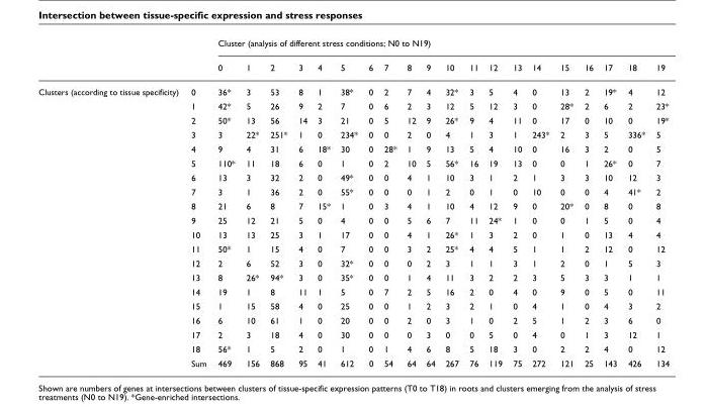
<table><thead><tr><td rowspan="2"></td><td rowspan="2"></td><td colspan="20">Cluster (analysis of different stress conditions; N0 to N19)</td></tr><tr><td>0</td><td>1</td><td>2</td><td>3</td><td>4</td><td>5</td><td>6</td><td>7</td><td>8</td><td>9</td><td>10</td><td>11</td><td>12</td><td>13</td><td>14</td><td>15</td><td>16</td><td>17</td><td>18</td><td>19</td></tr></thead><tbody><tr><td rowspan="20">Clusters (according to tissue specificity)</td><td>0</td><td>36*</td><td>3</td><td>53</td><td>8</td><td>1</td><td>38*</td><td>0</td><td>2</td><td>7</td><td>4</td><td>32*</td><td>3</td><td>5</td><td>4</td><td>0</td><td>13</td><td>2</td><td>19*</td><td>4</td><td>12</td></tr><tr><td>1</td><td>42*</td><td>5</td><td>26</td><td>9</td><td>2</td><td>7</td><td>0</td><td>6</td><td>2</td><td>3</td><td>12</td><td>5</td><td>12</td><td>3</td><td>0</td><td>28*</td><td>2</td><td>6</td><td>2</td><td>23*</td></tr><tr><td>2</td><td>50*</td><td>13</td><td>56</td><td>14</td><td>3</td><td>21</td><td>0</td><td>5</td><td>12</td><td>9</td><td>26*</td><td>9</td><td>4</td><td>11</td><td>0</td><td>17</td><td>0</td><td>10</td><td>0</td><td>19*</td></tr><tr><td>3</td><td>3</td><td>22*</td><td>251*</td><td>1</td><td>0</td><td>234*</td><td>0</td><td>0</td><td>2</td><td>0</td><td>4</td><td>1</td><td>3</td><td>1</td><td>243*</td><td>2</td><td>3</td><td>5</td><td>336*</td><td>5</td></tr><tr><td>4</td><td>9</td><td>4</td><td>31</td><td>6</td><td>18*</td><td>30</td><td>0</td><td>28*</td><td>1</td><td>9</td><td>13</td><td>5</td><td>4</td><td>10</td><td>0</td><td>16</td><td>3</td><td>2</td><td>0</td><td>5</td></tr><tr><td>5</td><td>110*</td><td>11</td><td>18</td><td>6</td><td>0</td><td>1</td><td>0</td><td>2</td><td>10</td><td>5</td><td>56*</td><td>16</td><td>19</td><td>13</td><td>0</td><td>0</td><td>1</td><td>26*</td><td>0</td><td>7</td></tr><tr><td>6</td><td>13</td><td>3</td><td>32</td><td>2</td><td>0</td><td>49*</td><td>0</td><td>0</td><td>4</td><td>1</td><td>10</td><td>3</td><td>1</td><td>2</td><td>1</td><td>3</td><td>3</td><td>10</td><td>12</td><td>3</td></tr><tr><td>7</td><td>3</td><td>1</td><td>36</td><td>2</td><td>0</td><td>55*</td><td>0</td><td>0</td><td>0</td><td>1</td><td>2</td><td>0</td><td>1</td><td>0</td><td>10</td><td>0</td><td>0</td><td>4</td><td>41*</td><td>2</td></tr><tr><td>8</td><td>21</td><td>6</td><td>8</td><td>7</td><td>15*</td><td>1</td><td>0</td><td>3</td><td>4</td><td>1</td><td>10</td><td>4</td><td>12</td><td>9</td><td>0</td><td>20*</td><td>0</td><td>8</td><td>0</td><td>8</td></tr><tr><td>9</td><td>25</td><td>12</td><td>21</td><td>5</td><td>0</td><td>4</td><td>0</td><td>0</td><td>5</td><td>6</td><td>7</td><td>11</td><td>24*</td><td>1</td><td>0</td><td>0</td><td>1</td><td>5</td><td>0</td><td>4</td></tr><tr><td>10</td><td>13</td><td>13</td><td>25</td><td>3</td><td>1</td><td>17</td><td>0</td><td>0</td><td>4</td><td>1</td><td>26*</td><td>1</td><td>3</td><td>2</td><td>0</td><td>1</td><td>0</td><td>13</td><td>4</td><td>4</td></tr><tr><td>11</td><td>50*</td><td>1</td><td>15</td><td>4</td><td>0</td><td>7</td><td>0</td><td>0</td><td>3</td><td>2</td><td>25*</td><td>4</td><td>4</td><td>5</td><td>1</td><td>1</td><td>2</td><td>12</td><td>0</td><td>12</td></tr><tr><td>12</td><td>2</td><td>6</td><td>52</td><td>3</td><td>0</td><td>32*</td><td>0</td><td>0</td><td>0</td><td>2</td><td>3</td><td>1</td><td>1</td><td>3</td><td>1</td><td>2</td><td>0</td><td>1</td><td>5</td><td>3</td></tr><tr><td>13</td><td>8</td><td>26*</td><td>94*</td><td>3</td><td>0</td><td>35*</td><td>0</td><td>0</td><td>1</td><td>4</td><td>11</td><td>3</td><td>2</td><td>2</td><td>3</td><td>5</td><td>3</td><td>3</td><td>1</td><td>1</td></tr><tr><td>14</td><td>19</td><td>1</td><td>8</td><td>11</td><td>1</td><td>5</td><td>0</td><td>7</td><td>2</td><td>5</td><td>16</td><td>2</td><td>0</td><td>4</td><td>0</td><td>9</td><td>0</td><td>5</td><td>0</td><td>11</td></tr><tr><td>15</td><td>1</td><td>15</td><td>58</td><td>4</td><td>0</td><td>25</td><td>0</td><td>0</td><td>1</td><td>2</td><td>3</td><td>2</td><td>1</td><td>0</td><td>4</td><td>1</td><td>0</td><td>4</td><td>3</td><td>2</td></tr><tr><td>16</td><td>6</td><td>10</td><td>61</td><td>1</td><td>0</td><td>20</td><td>0</td><td>0</td><td>2</td><td>0</td><td>3</td><td>1</td><td>0</td><td>2</td><td>5</td><td>1</td><td>2</td><td>3</td><td>6</td><td>0</td></tr><tr><td>17</td><td>2</td><td>3</td><td>18</td><td>4</td><td>0</td><td>30</td><td>0</td><td>0</td><td>0</td><td>3</td><td>0</td><td>0</td><td>5</td><td>0</td><td>4</td><td>0</td><td>1</td><td>3</td><td>12</td><td>1</td></tr><tr><td>18</td><td>56*</td><td>1</td><td>5</td><td>2</td><td>0</td><td>1</td><td>0</td><td>1</td><td>4</td><td>6</td><td>8</td><td>5</td><td>18</td><td>3</td><td>0</td><td>2</td><td>2</td><td>4</td><td>0</td><td>12</td></tr><tr><td>Sum</td><td>469</td><td>156</td><td>868</td><td>95</td><td>41</td><td>612</td><td>0</td><td>54</td><td>64</td><td>64</td><td>267</td><td>76</td><td>119</td><td>75</td><td>272</td><td>121</td><td>25</td><td>143</td><td>426</td><td>134</td></tr></tbody></table>